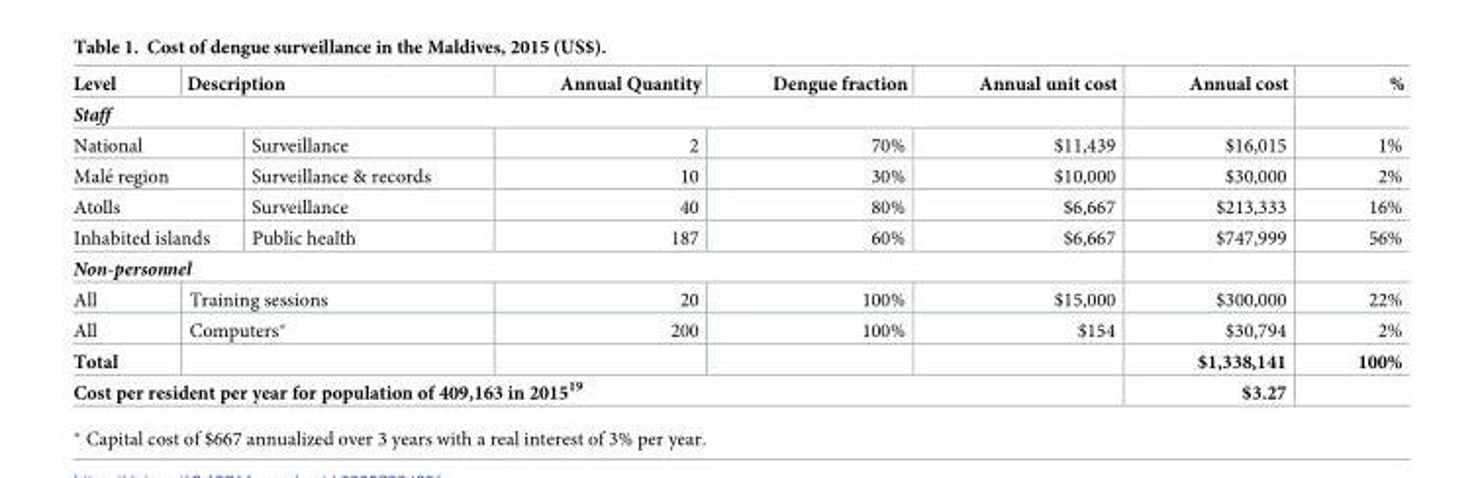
<table><thead><tr><td>Level</td><td colspan="2">Description</td><td>Annual Quantity</td><td>Dengue fraction</td><td>Annual unit cost</td><td>Annual cost</td><td>%</td></tr></thead><tbody><tr><td colspan="8">Staff</td></tr><tr><td colspan="2">National</td><td>Surveillance</td><td>2</td><td>70%</td><td>$11,439</td><td>$16,015</td><td>1%</td></tr><tr><td colspan="2">Male´ region</td><td>Surveillance &amp; records</td><td>10</td><td>30%</td><td>$10,000</td><td>$30,000</td><td>2%</td></tr><tr><td colspan="2">Atolls</td><td>Surveillance</td><td>40</td><td>80%</td><td>$6,667</td><td>$213,333</td><td>16%</td></tr><tr><td colspan="2">Inhabited islands</td><td>Public health</td><td>187</td><td>60%</td><td>$6,667</td><td>$747,999</td><td>56%</td></tr><tr><td colspan="8">Non-personnel</td></tr><tr><td>All</td><td colspan="2">Training sessions</td><td>20</td><td>100%</td><td>$15,000</td><td>$300,000</td><td>22%</td></tr><tr><td>All</td><td colspan="2">Computers*</td><td>200</td><td>100%</td><td>$154</td><td>$30,794</td><td>2%</td></tr><tr><td>Total</td><td colspan="2"></td><td></td><td></td><td></td><td>$1,338,141</td><td>100%</td></tr><tr><td colspan="6">Cost per resident per year for population of 409,163 in 2015<sup>19</sup></td><td>$3.27</td><td></td></tr></tbody></table>